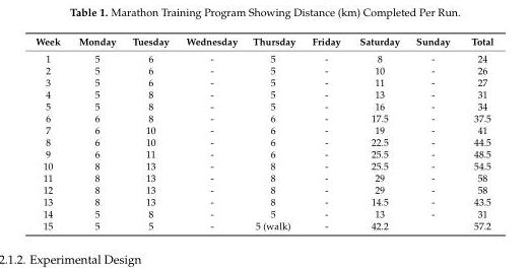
<table><thead><tr><td>Week</td><td>Monday</td><td>Tuesday</td><td>Wednesday</td><td>Thursday</td><td>Friday</td><td>Saturday</td><td>Sunday</td><td>Total</td></tr></thead><tbody><tr><td>1</td><td>5</td><td>6</td><td>-</td><td>5</td><td>-</td><td>8</td><td>-</td><td>24</td></tr><tr><td>2</td><td>5</td><td>6</td><td>-</td><td>5</td><td>-</td><td>10</td><td>-</td><td>26</td></tr><tr><td>3</td><td>5</td><td>6</td><td>-</td><td>5</td><td>-</td><td>11</td><td>-</td><td>27</td></tr><tr><td>4</td><td>5</td><td>8</td><td>-</td><td>5</td><td>-</td><td>13</td><td>-</td><td>31</td></tr><tr><td>5</td><td>5</td><td>8</td><td>-</td><td>5</td><td>-</td><td>16</td><td>-</td><td>34</td></tr><tr><td>6</td><td>6</td><td>8</td><td>-</td><td>6</td><td>-</td><td>17.5</td><td>-</td><td>37.5</td></tr><tr><td>7</td><td>6</td><td>10</td><td>-</td><td>6</td><td>-</td><td>19</td><td>-</td><td>41</td></tr><tr><td>8</td><td>6</td><td>10</td><td>-</td><td>6</td><td>-</td><td>22.5</td><td>-</td><td>44.5</td></tr><tr><td>9</td><td>6</td><td>11</td><td>-</td><td>6</td><td>-</td><td>25.5</td><td>-</td><td>48.5</td></tr><tr><td>10</td><td>8</td><td>13</td><td>-</td><td>8</td><td>-</td><td>25.5</td><td>-</td><td>54.5</td></tr><tr><td>11</td><td>8</td><td>13</td><td>-</td><td>8</td><td>-</td><td>29</td><td>-</td><td>58</td></tr><tr><td>12</td><td>8</td><td>13</td><td>-</td><td>8</td><td>-</td><td>29</td><td>-</td><td>58</td></tr><tr><td>13</td><td>8</td><td>13</td><td>-</td><td>8</td><td>-</td><td>14.5</td><td>-</td><td>43.5</td></tr><tr><td>14</td><td>5</td><td>8</td><td>-</td><td>5</td><td>-</td><td>13</td><td>-</td><td>31</td></tr><tr><td>15</td><td>5</td><td>5</td><td>-</td><td>5 (walk)</td><td>-</td><td>42.2</td><td></td><td>57.2</td></tr></tbody></table>